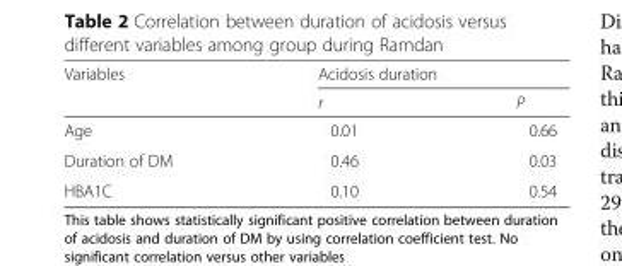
<table><thead><tr><td rowspan="2">Variables</td><td colspan="2">Acidosis duration</td></tr><tr><td>r</td><td>P</td></tr></thead><tbody><tr><td>Age</td><td>0.01</td><td>0.66</td></tr><tr><td>Duration of DM</td><td>0.46</td><td>0.03</td></tr><tr><td>HBA1C</td><td>0.10</td><td>0.54</td></tr></tbody></table>